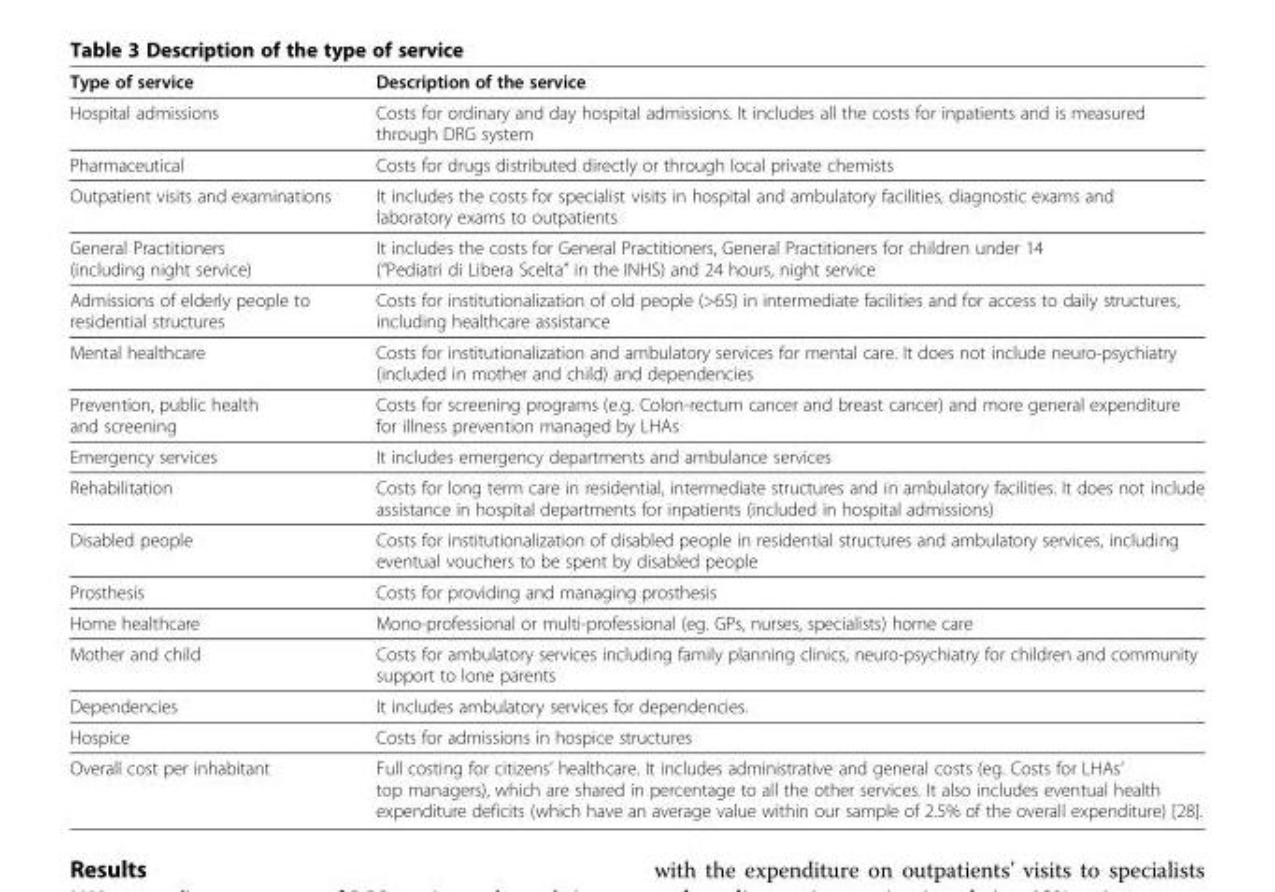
<table><thead><tr><td>Type of service</td><td>Description of the service</td></tr></thead><tbody><tr><td>Hospital admissions</td><td>Costs for ordinary and day hospital admissions. It includes all the costs for inpatients and is measured through DRG system</td></tr><tr><td>Pharmaceutical</td><td>Costs for drugs distributed directly or through local private chemists</td></tr><tr><td>Outpatient visits and examinations</td><td>It includes the costs for specialist visits in hospital and ambulatory facilities, diagnostic exams and laboratory exams to outpatients</td></tr><tr><td>General Practitioners (including night service)</td><td>It includes the costs for General Practitioners, General Practitioners for children under 14 (“Pediatri di Libera Scelta” in the INHS) and 24 hours, night service</td></tr><tr><td>Admissions of elderly people to residential structures</td><td>Costs for institutionalization of old people (&gt;65) in intermediate facilities and for access to daily structures, including healthcare assistance</td></tr><tr><td>Mental healthcare</td><td>Costs for institutionalization and ambulatory services for mental care. It does not include neuro-psychiatry (included in mother and child) and dependencies</td></tr><tr><td>Prevention, public health and screening</td><td>Costs for screening programs (e.g. Colon-rectum cancer and breast cancer) and more general expenditure for illness prevention managed by LHAs</td></tr><tr><td>Emergency services</td><td>It includes emergency departments and ambulance services</td></tr><tr><td>Rehabilitation</td><td>Costs for long term care in residential, intermediate structures and in ambulatory facilities. It does not include assistance in hospital departments for inpatients (included in hospital admissions)</td></tr><tr><td>Disabled people</td><td>Costs for institutionalization of disabled people in residential structures and ambulatory services, including eventual vouchers to be spent by disabled people</td></tr><tr><td>Prosthesis</td><td>Costs for providing and managing prosthesis</td></tr><tr><td>Home healthcare</td><td>Mono-professional or multi-professional (eg. GPs, nurses, specialists) home care</td></tr><tr><td>Mother and child</td><td>Costs for ambulatory services including family planning clinics, neuro-psychiatry for children and community support to lone parents</td></tr><tr><td>Dependencies</td><td>It includes ambulatory services for dependencies.</td></tr><tr><td>Hospice</td><td>Costs for admissions in hospice structures</td></tr><tr><td>Overall cost per inhabitant</td><td>Full costing for citizens’ healthcare. It includes administrative and general costs (eg. Costs for LHAs’ top managers), which are shared in percentage to all the other services. It also includes eventual health expenditure deficits (which have an average value within our sample of 2.5% of the overall expenditure) [28].</td></tr></tbody></table>